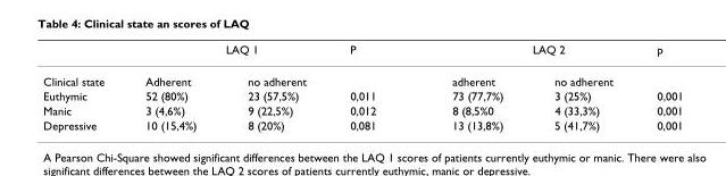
<table><thead><tr><td rowspan="2">Clinical state</td><td colspan="2">LAQ 1</td><td rowspan="2">P</td><td colspan="2">LAQ 2</td><td rowspan="2">p</td></tr><tr><td>Adherent</td><td>no adherent</td><td>adherent</td><td>no adherent</td></tr></thead><tbody><tr><td>Euthymic</td><td>52 (80%)</td><td>23 (57,5%)</td><td>0,011</td><td>73 (77,7%)</td><td>3 (25%)</td><td>0,001</td></tr><tr><td>Manic</td><td>3 (4,6%)</td><td>9 (22,5%)</td><td>0,012</td><td>8 (8,5%0</td><td>4 (33,3%)</td><td>0,001</td></tr><tr><td>Depressive</td><td>10 (15,4%)</td><td>8 (20%)</td><td>0,081</td><td>13 (13,8%)</td><td>5 (41,7%)</td><td>0,001</td></tr></tbody></table>